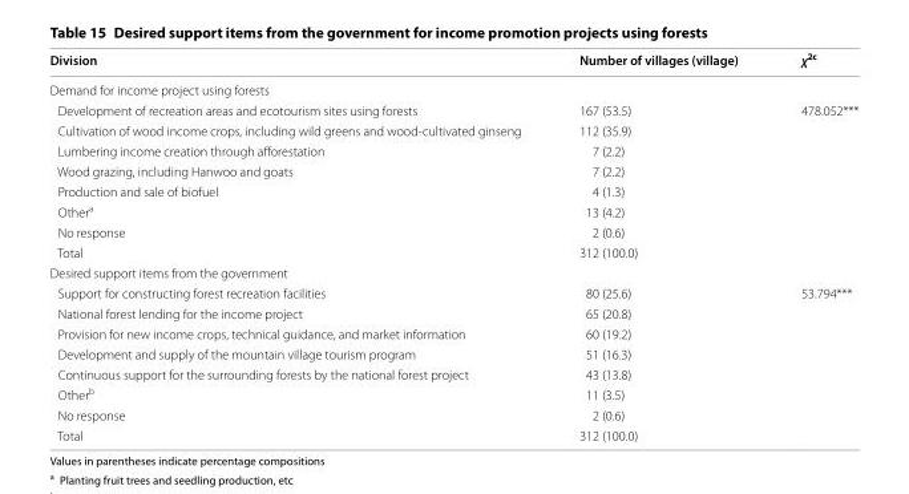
<table><thead><tr><td>Division</td><td>Number of villages (village)</td><td>χ<sup>2c</sup></td></tr></thead><tbody><tr><td colspan="3">Demand for income project using forests</td></tr><tr><td>Development of recreation areas and ecotourism sites using forests</td><td>167 (53.5)</td><td rowspan="6">478.052***</td></tr><tr><td>Cultivation of wood income crops, including wild greens and wood-cultivated ginseng</td><td>112 (35.9)</td></tr><tr><td>Lumbering income creation through afforestation</td><td>7 (2.2)</td></tr><tr><td>Wood grazing, including Hanwoo and goats</td><td>7 (2.2)</td></tr><tr><td>Production and sale of biofuel</td><td>4 (1.3)</td></tr><tr><td>Other<sup>a</sup></td><td>13 (4.2)</td></tr><tr><td>No response</td><td>2 (0.6)</td><td></td></tr><tr><td>Total</td><td>312 (100.0)</td><td></td></tr><tr><td colspan="3">Desired support items from the government</td></tr><tr><td>Support for constructing forest recreation facilities</td><td>80 (25.6)</td><td rowspan="6">53.794***</td></tr><tr><td>National forest lending for the income project</td><td>65 (20.8)</td></tr><tr><td>Provision for new income crops, technical guidance, and market information</td><td>60 (19.2)</td></tr><tr><td>Development and supply of the mountain village tourism program</td><td>51 (16.3)</td></tr><tr><td>Continuous support for the surrounding forests by the national forest project</td><td>43 (13.8)</td></tr><tr><td>Other<sup>b</sup></td><td>11 (3.5)</td></tr><tr><td>No response</td><td>2 (0.6)</td><td></td></tr><tr><td>Total</td><td>312 (100.0)</td><td></td></tr></tbody></table>